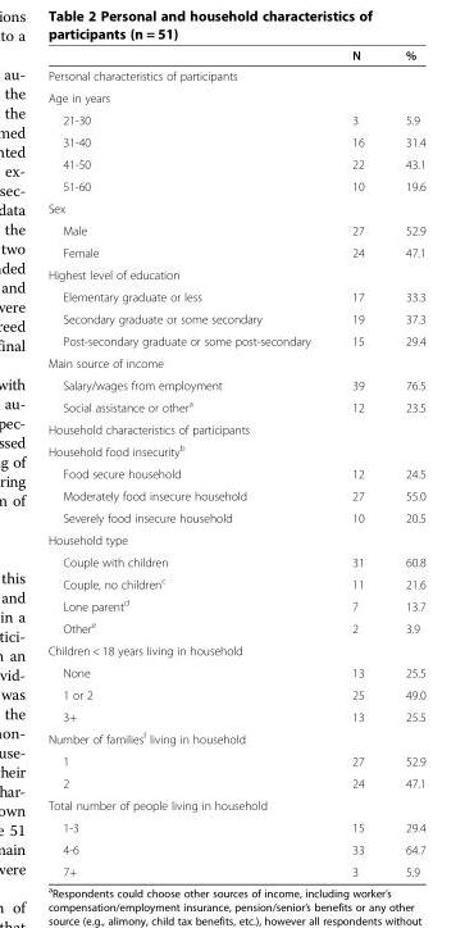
<table><thead><tr><td></td><td>N</td><td>%</td></tr></thead><tbody><tr><td colspan="3">Personal characteristics of participants</td></tr><tr><td colspan="3">Age in years</td></tr><tr><td>21-30</td><td>3</td><td>5.9</td></tr><tr><td>31-40</td><td>16</td><td>31.4</td></tr><tr><td>41-50</td><td>22</td><td>43.1</td></tr><tr><td>51-60</td><td>10</td><td>19.6</td></tr><tr><td colspan="3">Sex</td></tr><tr><td>Male</td><td>27</td><td>52.9</td></tr><tr><td>Female</td><td>24</td><td>47.1</td></tr><tr><td colspan="3">Highest level of education</td></tr><tr><td>Elementary graduate or less</td><td>17</td><td>33.3</td></tr><tr><td>Secondary graduate or some secondary</td><td>19</td><td>37.3</td></tr><tr><td>Post-secondary graduate or some post-secondary</td><td>15</td><td>29.4</td></tr><tr><td colspan="3">Main source of income</td></tr><tr><td>Salary/wages from employment</td><td>39</td><td>76.5</td></tr><tr><td>Social assistance or other<sup>a</sup></td><td>12</td><td>23.5</td></tr><tr><td colspan="3">Household characteristics of participants</td></tr><tr><td colspan="3">Household food insecurity<sup>b</sup></td></tr><tr><td>Food secure household</td><td>12</td><td>24.5</td></tr><tr><td>Moderately food insecure household</td><td>27</td><td>55.0</td></tr><tr><td>Severely food insecure household</td><td>10</td><td>20.5</td></tr><tr><td colspan="3">Household type</td></tr><tr><td>Couple with children</td><td>31</td><td>60.8</td></tr><tr><td>Couple, no children<sup>c</sup></td><td>11</td><td>21.6</td></tr><tr><td>Lone parent<sup>d</sup></td><td>7</td><td>13.7</td></tr><tr><td>Other<sup>e</sup></td><td>2</td><td>3.9</td></tr><tr><td colspan="3">Children &lt; 18 years living in household</td></tr><tr><td>None</td><td>13</td><td>25.5</td></tr><tr><td>1 or 2</td><td>25</td><td>49.0</td></tr><tr><td>3+</td><td>13</td><td>25.5</td></tr><tr><td colspan="3">Number of families<sup>f</sup> living in household</td></tr><tr><td>1</td><td>27</td><td>52.9</td></tr><tr><td>2</td><td>24</td><td>47.1</td></tr><tr><td colspan="3">Total number of people living in household</td></tr><tr><td>1-3</td><td>15</td><td>29.4</td></tr><tr><td>4-6</td><td>33</td><td>64.7</td></tr><tr><td>7+</td><td>3</td><td>5.9</td></tr></tbody></table>